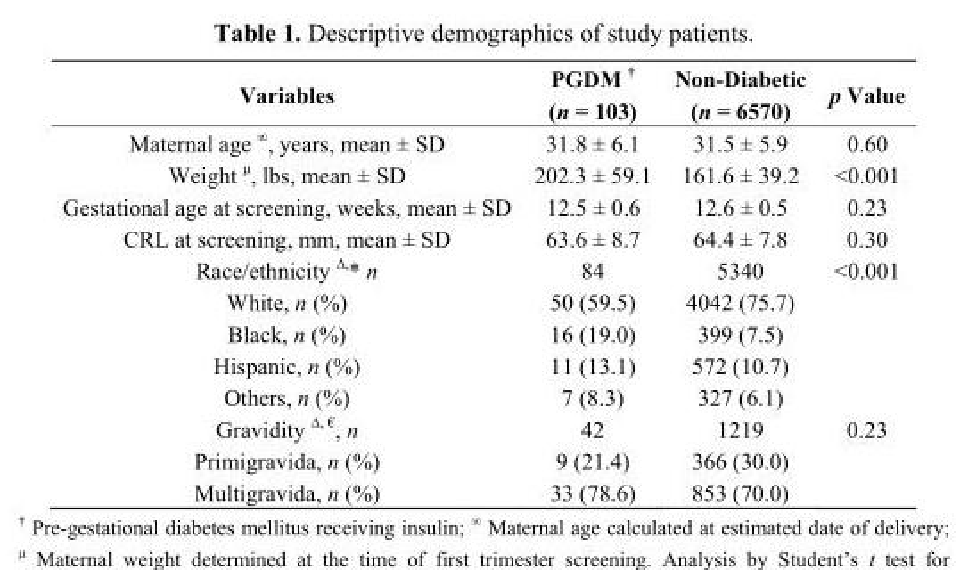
<table><thead><tr><td>Variables</td><td>PGDM <sup>†</sup> (n = 103)</td><td>Non-Diabetic (n = 6570)</td><td>p Value</td></tr></thead><tbody><tr><td>Maternal age <sup>∞</sup>, years, mean ± SD</td><td>31.8 ± 6.1</td><td>31.5 ± 5.9</td><td>0.60</td></tr><tr><td>Weight <sup>μ</sup>, lbs, mean ± SD</td><td>202.3 ± 59.1</td><td>161.6 ± 39.2</td><td>&lt;0.001</td></tr><tr><td>Gestational age at screening, weeks, mean ± SD</td><td>12.5 ± 0.6</td><td>12.6 ± 0.5</td><td>0.23</td></tr><tr><td>CRL at screening, mm, mean ± SD</td><td>63.6 ± 8.7</td><td>64.4 ± 7.8</td><td>0.30</td></tr><tr><td>Race/ethnicity <sup>∆,</sup>* n</td><td>84</td><td>5340</td><td>&lt;0.001</td></tr><tr><td>White, n (%)</td><td>50 (59.5)</td><td>4042 (75.7)</td><td></td></tr><tr><td>Black, n (%)</td><td>16 (19.0)</td><td>399 (7.5)</td><td></td></tr><tr><td>Hispanic, n (%)</td><td>11 (13.1)</td><td>572 (10.7)</td><td></td></tr><tr><td>Others, n (%)</td><td>7 (8.3)</td><td>327 (6.1)</td><td></td></tr><tr><td>Gravidity <sup>∆, €</sup>, n</td><td>42</td><td>1219</td><td>0.23</td></tr><tr><td>Primigravida, n (%)</td><td>9 (21.4)</td><td>366 (30.0)</td><td></td></tr><tr><td>Multigravida, n (%)</td><td>33 (78.6)</td><td>853 (70.0)</td><td></td></tr></tbody></table>